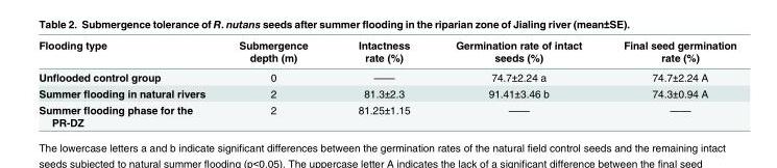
<table><thead><tr><td>Flooding type</td><td>Submergence depth (m)</td><td>Intactness rate (%)</td><td>Germination rate of intact seeds (%)</td><td>Final seed germination rate (%)</td></tr></thead><tbody><tr><td>Unflooded control group</td><td>0</td><td>——</td><td>74.7±2.24 a</td><td>74.7±2.24 A</td></tr><tr><td>Summer flooding in natural rivers</td><td>2</td><td>81.3±2.3</td><td>91.41±3.46 b</td><td>74.3±0.94 A</td></tr><tr><td>Summer flooding phase for the PR-DZ</td><td>2</td><td>81.25±1.15</td><td>——</td><td>——</td></tr></tbody></table>